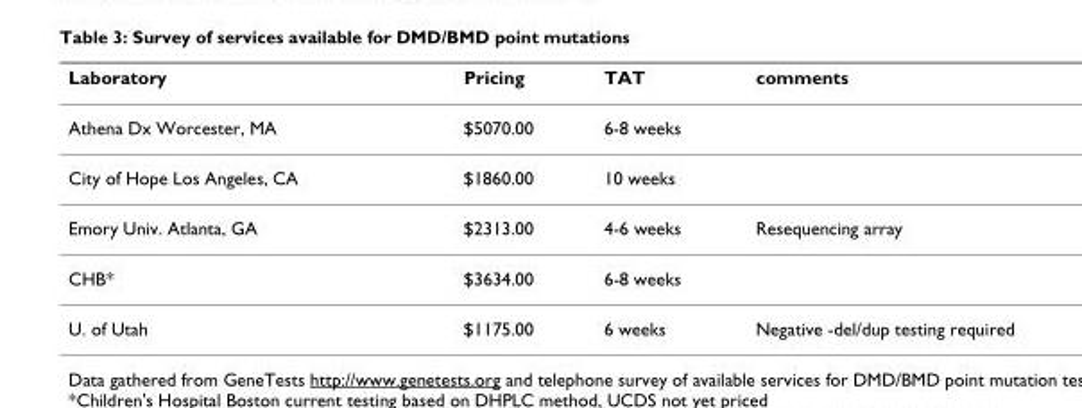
<table><thead><tr><td>Laboratory</td><td>Pricing</td><td>TAT</td><td>comments</td></tr></thead><tbody><tr><td>Athena Dx Worcester, MA</td><td>$5070.00</td><td>6-8 weeks</td><td></td></tr><tr><td>City of Hope Los Angeles, CA</td><td>$1860.00</td><td>10 weeks</td><td></td></tr><tr><td>Emory Univ. Atlanta, GA</td><td>$2313.00</td><td>4-6 weeks</td><td>Resequencing array</td></tr><tr><td>CHB*</td><td>$3634.00</td><td>6-8 weeks</td><td></td></tr><tr><td>U. of Utah</td><td>$1175.00</td><td>6 weeks</td><td>Negative -del/dup testing required</td></tr></tbody></table>